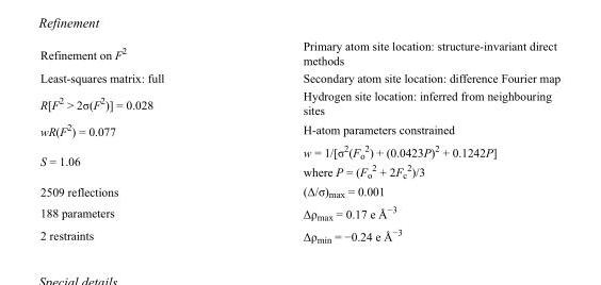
<table><tbody><tr><td>Refinement on F<sup>2</sup></td><td>Primary atom site location: structure-invariant direct methods</td></tr><tr><td>Least-squares matrix: full</td><td>Secondary atom site location: difference Fourier map</td></tr><tr><td>R[F<sup>2</sup> &gt; 2σ(F<sup>2</sup>)] = 0.028</td><td>Hydrogen site location: inferred from neighbouring sites</td></tr><tr><td>wR(F<sup>2</sup>) = 0.077</td><td>H-atom parameters constrained</td></tr><tr><td>S = 1.06</td><td>w = 1/[σ<sup>2</sup>(F<sub>o</sub> <sup>2</sup>) + (0.0423P)<sup>2</sup> + 0.1242P] where P = (F<sub>o</sub> <sup>2</sup> + 2F<sub>c</sub> <sup>2</sup>)/3</td></tr><tr><td>2509 reflections</td><td>(Δ/σ)<sub>max</sub> = 0.001</td></tr><tr><td>188 parameters</td><td>Δρ<sub>max</sub> = 0.17 e Å<sup>−3</sup></td></tr><tr><td>2 restraints</td><td>Δρ<sub>min</sub> = −0.24 e Å<sup>−3</sup></td></tr></tbody></table>